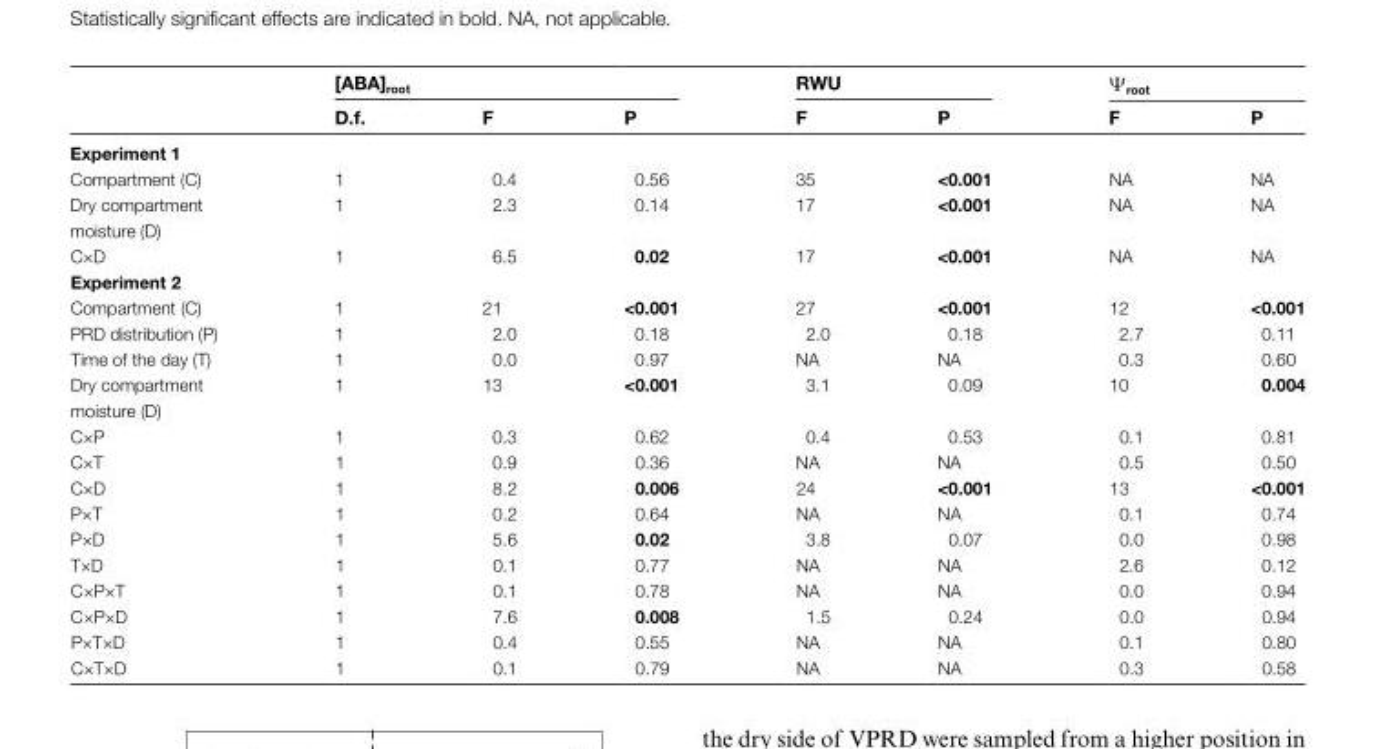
<table><thead><tr><td rowspan="2"></td><td colspan="3">[ABA]<sub>root</sub></td><td colspan="2">RWU</td><td colspan="2">Ψ<sub>root</sub></td></tr><tr><td>D.f.</td><td>F</td><td>P</td><td>F</td><td>P</td><td>F</td><td>P</td></tr></thead><tbody><tr><td colspan="8">Experiment 1</td></tr><tr><td>Compartment (C)</td><td>1</td><td>0.4</td><td>0.56</td><td>35</td><td>&lt;0.001</td><td>NA</td><td>NA</td></tr><tr><td>Dry compartment moisture (D)</td><td>1</td><td>2.3</td><td>0.14</td><td>17</td><td>&lt;0.001</td><td>NA</td><td>NA</td></tr><tr><td>C×D</td><td>1</td><td>6.5</td><td>0.02</td><td>17</td><td>&lt;0.001</td><td>NA</td><td>NA</td></tr><tr><td colspan="8">Experiment 2</td></tr><tr><td>Compartment (C)</td><td>1</td><td>21</td><td>&lt;0.001</td><td>27</td><td>&lt;0.001</td><td>12</td><td>&lt;0.001</td></tr><tr><td>PRD distribution (P)</td><td>1</td><td>2.0</td><td>0.18</td><td>2.0</td><td>0.18</td><td>2.7</td><td>0.11</td></tr><tr><td>Time of the day (T)</td><td>1</td><td>0.0</td><td>0.97</td><td>NA</td><td>NA</td><td>0.3</td><td>0.60</td></tr><tr><td>Dry compartment moisture (D)</td><td>1</td><td>13</td><td>&lt;0.001</td><td>3.1</td><td>0.09</td><td>10</td><td>0.004</td></tr><tr><td>C×P</td><td>1</td><td>0.3</td><td>0.62</td><td>0.4</td><td>0.53</td><td>0.1</td><td>0.81</td></tr><tr><td>C×T</td><td>1</td><td>0.9</td><td>0.36</td><td>NA</td><td>NA</td><td>0.5</td><td>0.50</td></tr><tr><td>C×D</td><td>1</td><td>8.2</td><td>0.006</td><td>24</td><td>&lt;0.001</td><td>13</td><td>&lt;0.001</td></tr><tr><td>P×T</td><td>1</td><td>0.2</td><td>0.64</td><td>NA</td><td>NA</td><td>0.1</td><td>0.74</td></tr><tr><td>P×D</td><td>1</td><td>5.6</td><td>0.02</td><td>3.8</td><td>0.07</td><td>0.0</td><td>0.98</td></tr><tr><td>T×D</td><td>1</td><td>0.1</td><td>0.77</td><td>NA</td><td>NA</td><td>2.6</td><td>0.12</td></tr><tr><td>C×P×T</td><td>1</td><td>0.1</td><td>0.78</td><td>NA</td><td>NA</td><td>0.0</td><td>0.94</td></tr><tr><td>C×P×D</td><td>1</td><td>7.6</td><td>0.008</td><td>1.5</td><td>0.24</td><td>0.0</td><td>0.94</td></tr><tr><td>P×T×D</td><td>1</td><td>0.4</td><td>0.55</td><td>NA</td><td>NA</td><td>0.1</td><td>0.80</td></tr><tr><td>C×T×D</td><td>1</td><td>0.1</td><td>0.79</td><td>NA</td><td>NA</td><td>0.3</td><td>0.58</td></tr></tbody></table>